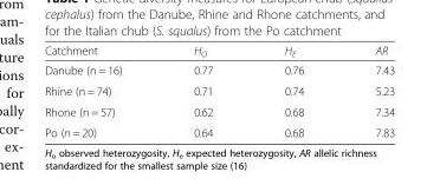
<table><thead><tr><td>Catchment</td><td>H<sub>O</sub></td><td>H<sub>E</sub></td><td>AR</td></tr></thead><tbody><tr><td>Danube (n = 16)</td><td>0.77</td><td>0.76</td><td>7.43</td></tr><tr><td>Rhine (n = 74)</td><td>0.71</td><td>0.74</td><td>5.23</td></tr><tr><td>Rhone (n = 57)</td><td>0.62</td><td>0.68</td><td>7.34</td></tr><tr><td>Po (n = 20)</td><td>0.64</td><td>0.68</td><td>7.83</td></tr></tbody></table>